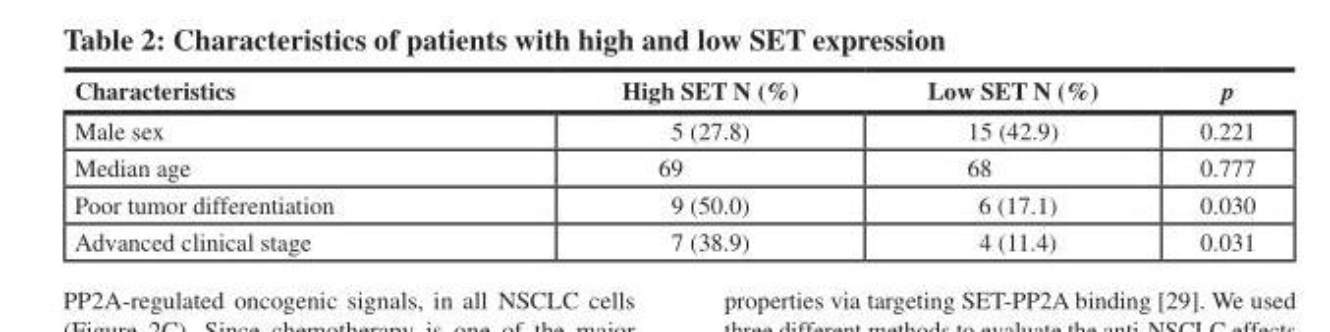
<table><thead><tr><td>Characteristics</td><td>High SET N (%)</td><td>Low SET N (%)</td><td>p</td></tr></thead><tbody><tr><td>Male sex</td><td>5 (27.8)</td><td>15 (42.9)</td><td>0.221</td></tr><tr><td>Median age</td><td>69</td><td>68</td><td>0.777</td></tr><tr><td>Poor tumor differentiation</td><td>9 (50.0)</td><td>6 (17.1)</td><td>0.030</td></tr><tr><td>Advanced clinical stage</td><td>7 (38.9)</td><td>4 (11.4)</td><td>0.031</td></tr></tbody></table>